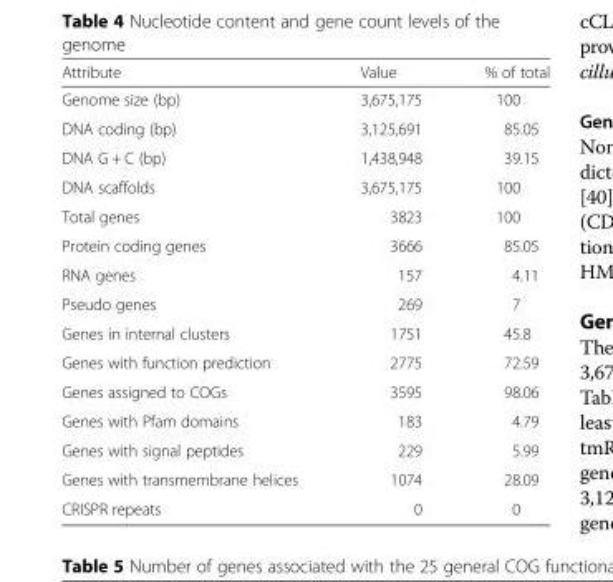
<table><thead><tr><td>Attribute</td><td>Value</td><td>% of total</td></tr></thead><tbody><tr><td>Genome size (bp)</td><td>3,675,175</td><td>100</td></tr><tr><td>DNA coding (bp)</td><td>3,125,691</td><td>85.05</td></tr><tr><td>DNA G + C (bp)</td><td>1,438,948</td><td>39.15</td></tr><tr><td>DNA scaffolds</td><td>3,675,175</td><td>100</td></tr><tr><td>Total genes</td><td>3823</td><td>100</td></tr><tr><td>Protein coding genes</td><td>3666</td><td>85.05</td></tr><tr><td>RNA genes</td><td>157</td><td>4.11</td></tr><tr><td>Pseudo genes</td><td>269</td><td>7</td></tr><tr><td>Genes in internal clusters</td><td>1751</td><td>45.8</td></tr><tr><td>Genes with function prediction</td><td>2775</td><td>72.59</td></tr><tr><td>Genes assigned to COGs</td><td>3595</td><td>98.06</td></tr><tr><td>Genes with Pfam domains</td><td>183</td><td>4.79</td></tr><tr><td>Genes with signal peptides</td><td>229</td><td>5.99</td></tr><tr><td>Genes with transmembrane helices</td><td>1074</td><td>28.09</td></tr><tr><td>CRISPR repeats</td><td>0</td><td>0</td></tr></tbody></table>